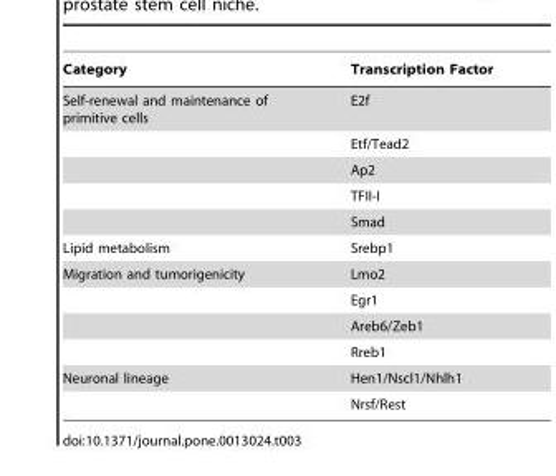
<table><thead><tr><td>Category</td><td>Transcription Factor</td></tr></thead><tbody><tr><td rowspan="5">Self-renewal and maintenance of primitive cells</td><td>E2f</td></tr><tr><td>Etf/Tead2</td></tr><tr><td>Ap2</td></tr><tr><td>TFII-I</td></tr><tr><td>Smad</td></tr><tr><td>Lipid metabolism</td><td>Srebp1</td></tr><tr><td rowspan="4">Migration and tumorigenicity</td><td>Lmo2</td></tr><tr><td>Egr1</td></tr><tr><td>Areb6/Zeb1</td></tr><tr><td>Rreb1</td></tr><tr><td rowspan="2">Neuronal lineage</td><td>Hen1/Nscl1/Nhlh1</td></tr><tr><td>Nrsf/Rest</td></tr></tbody></table>